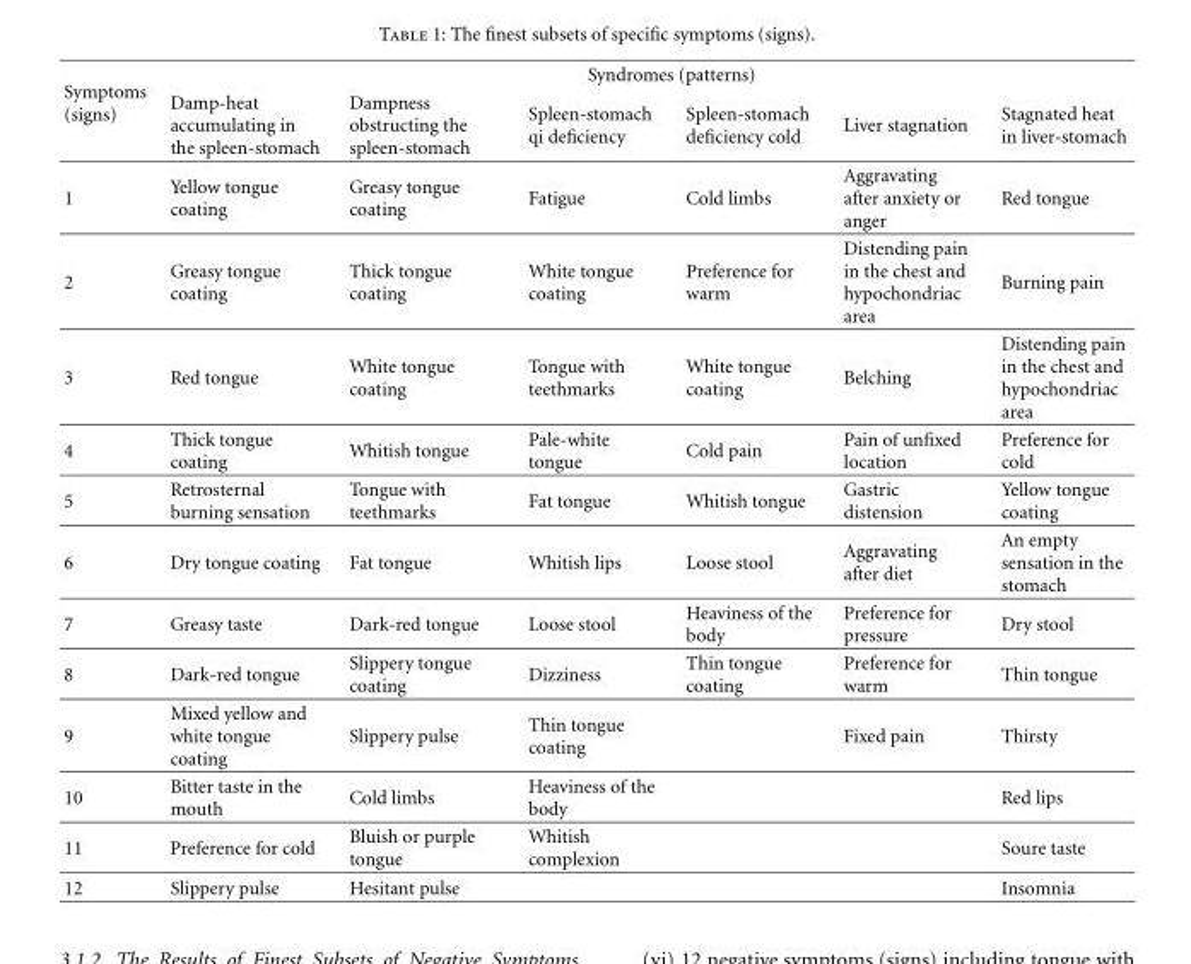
<table><thead><tr><td rowspan="2">Symptoms (signs)</td><td rowspan="2">Damp-heat accumulating in the spleen-stomach</td><td rowspan="2">Dampness obstructing the spleen-stomach</td><td colspan="2">Syndromes (patterns)</td><td rowspan="2">Liver stagnation</td><td rowspan="2">Stagnated heat in liver-stomach</td></tr><tr><td>Spleen-stomach qi deficiency</td><td>Spleen-stomach deficiency cold</td></tr></thead><tbody><tr><td>1</td><td>Yellow tongue coating</td><td>Greasy tongue coating</td><td>Fatigue</td><td>Cold limbs</td><td>Aggravating after anxiety or anger</td><td>Red tongue</td></tr><tr><td>2</td><td>Greasy tongue coating</td><td>Thick tongue coating</td><td>White tongue coating</td><td>Preference for warm</td><td>Distending pain in the chest and hypochondriac area</td><td>Burning pain</td></tr><tr><td>3</td><td>Red tongue</td><td>White tongue coating</td><td>Tongue with teethmarks</td><td>White tongue coating</td><td>Belching</td><td>Distending pain in the chest and hypochondriac area</td></tr><tr><td>4</td><td>Thick tongue coating</td><td>Whitish tongue</td><td>Pale-white tongue</td><td>Cold pain</td><td>Pain of unfixed location</td><td>Preference for cold</td></tr><tr><td>5</td><td>Retrosternal burning sensation</td><td>Tongue with teethmarks</td><td>Fat tongue</td><td>Whitish tongue</td><td>Gastric distension</td><td>Yellow tongue coating</td></tr><tr><td>6</td><td>Dry tongue coating</td><td>Fat tongue</td><td>Whitish lips</td><td>Loose stool</td><td>Aggravating after diet</td><td>An empty sensation in the stomach</td></tr><tr><td>7</td><td>Greasy taste</td><td>Dark-red tongue</td><td>Loose stool</td><td>Heaviness of the body</td><td>Preference for pressure</td><td>Dry stool</td></tr><tr><td>8</td><td>Dark-red tongue</td><td>Slippery tongue coating</td><td>Dizziness</td><td>Thin tongue coating</td><td>Preference for warm</td><td>Thin tongue</td></tr><tr><td>9</td><td>Mixed yellow and white tongue coating</td><td>Slippery pulse</td><td>Thin tongue coating</td><td></td><td>Fixed pain</td><td>Thirsty</td></tr><tr><td>10</td><td>Bitter taste in the mouth</td><td>Cold limbs</td><td>Heaviness of the body</td><td></td><td></td><td>Red lips</td></tr><tr><td>11</td><td>Preference for cold</td><td>Bluish or purple tongue</td><td>Whitish complexion</td><td></td><td></td><td>Soure taste</td></tr><tr><td>12</td><td>Slippery pulse</td><td>Hesitant pulse</td><td></td><td></td><td></td><td>Insomnia</td></tr></tbody></table>